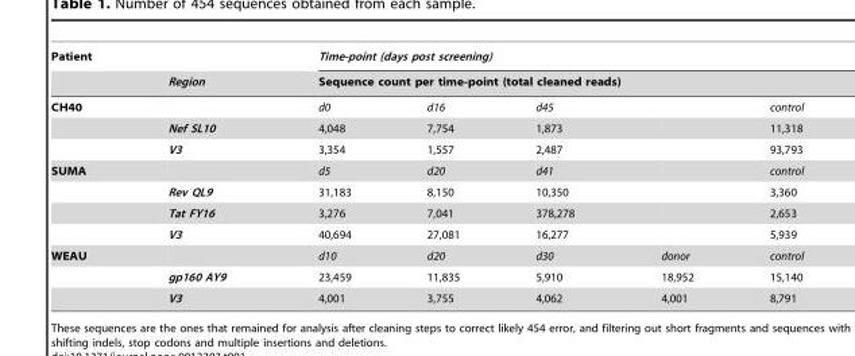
<table><thead><tr><td rowspan="3">Patient CH40</td><td rowspan="3">Region</td><td rowspan="2" colspan="5">Time-point (days post screening) Sequence count per time-point (total cleaned reads)</td></tr><tr></tr><tr><td>d0</td><td>d16</td><td>d45</td><td></td><td>control</td></tr></thead><tbody><tr><td></td><td>Nef SL10</td><td>4,048</td><td>7,754</td><td>1,873</td><td></td><td>11,318</td></tr><tr><td></td><td>V3</td><td>3,354</td><td>1,557</td><td>2,487</td><td></td><td>93,793</td></tr><tr><td rowspan="4">SUMA</td><td></td><td>d5</td><td>d20</td><td>d41</td><td></td><td>control</td></tr><tr><td>Rev QL9</td><td>31,183</td><td>8,150</td><td>10,350</td><td></td><td>3,360</td></tr><tr><td>Tat FY16</td><td>3,276</td><td>7,041</td><td>378,278</td><td></td><td>2,653</td></tr><tr><td>V3</td><td>40,694</td><td>27,081</td><td>16,277</td><td></td><td>5,939</td></tr><tr><td rowspan="3">WEAU</td><td></td><td>d10</td><td>d20</td><td>d30</td><td>donor</td><td>control</td></tr><tr><td>gp160 AY9</td><td>23,459</td><td>11,835</td><td>5,910</td><td>18,952</td><td>15,140</td></tr><tr><td>V3</td><td>4,001</td><td>3,755</td><td>4,062</td><td>4,001</td><td>8,791</td></tr></tbody></table>